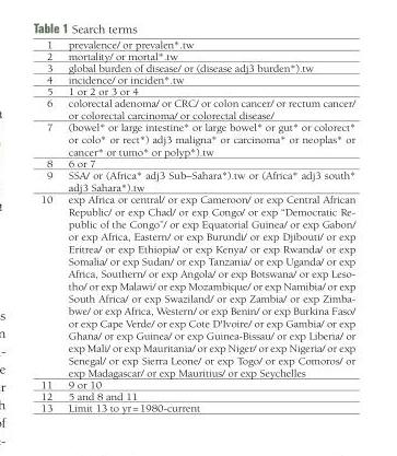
<table><tbody><tr><td>1</td><td>prevalence/ or prevalen*.tw</td></tr><tr><td>2</td><td>mortality/ or mortal*.tw</td></tr><tr><td>3</td><td>global burden of disease/ or (disease adj3 burden*).tw</td></tr><tr><td>4</td><td>incidence/ or inciden*.tw</td></tr><tr><td>5</td><td>1 or 2 or 3 or 4</td></tr><tr><td>6</td><td>colorectal adenoma/ or CRC/ or colon cancer/ or rectum cancer/ or colorectal carcinoma/ or colorectal disease/</td></tr><tr><td>7</td><td>(bowel* or large intestine* or large bowel* or gut* or colorect* or colo* or rect*) adj3 maligna* or carcinoma* or neoplas* or cancer* or tumo* or polyp*).tw</td></tr><tr><td>8</td><td>6 or 7</td></tr><tr><td>9</td><td>SSA/ or (Africa* adj3 Sub–Sahara*).tw or (Africa* adj3 south* adj3 Sahara*).tw</td></tr><tr><td>10</td><td>exp Africa or central/ or exp Cameroon/ or exp Central African Republic/ or exp Chad/ or exp Congo/ or exp “Democratic Re- public of the Congo”/ or exp Equatorial Guinea/ or exp Gabon/ or exp Africa, Eastern/ or exp Burundi/ or exp Djibouti/ or exp Eritrea/ or exp Ethiopia/ or exp Kenya/ or exp Rwanda/ or exp Somalia/ or exp Sudan/ or exp Tanzania/ or exp Uganda/ or exp Africa, Southern/ or exp Angola/ or exp Botswana/ or exp Leso- tho/ or exp Malawi/ or exp Mozambique/ or exp Namibia/ or exp South Africa/ or exp Swaziland/ or exp Zambia/ or exp Zimba- bwe/ or exp Africa, Western/ or exp Benin/ or exp Burkina Faso/ or exp Cape Verde/ or exp Cote D&#x27;Ivoire/ or exp Gambia/ or exp Ghana/ or exp Guinea/ or exp Guinea-Bissau/ or exp Liberia/ or exp Mali/ or exp Mauritania/ or exp Niger/ or exp Nigeria/ or exp Senegal/ or exp Sierra Leone/ or exp Togo/ or exp Comoros/ or exp Madagascar/ or exp Mauritius/ or exp Seychelles</td></tr><tr><td>11</td><td>9 or 10</td></tr><tr><td>12</td><td>5 and 8 and 11</td></tr><tr><td>13</td><td>Limit 13 to yr = 1980-current</td></tr></tbody></table>